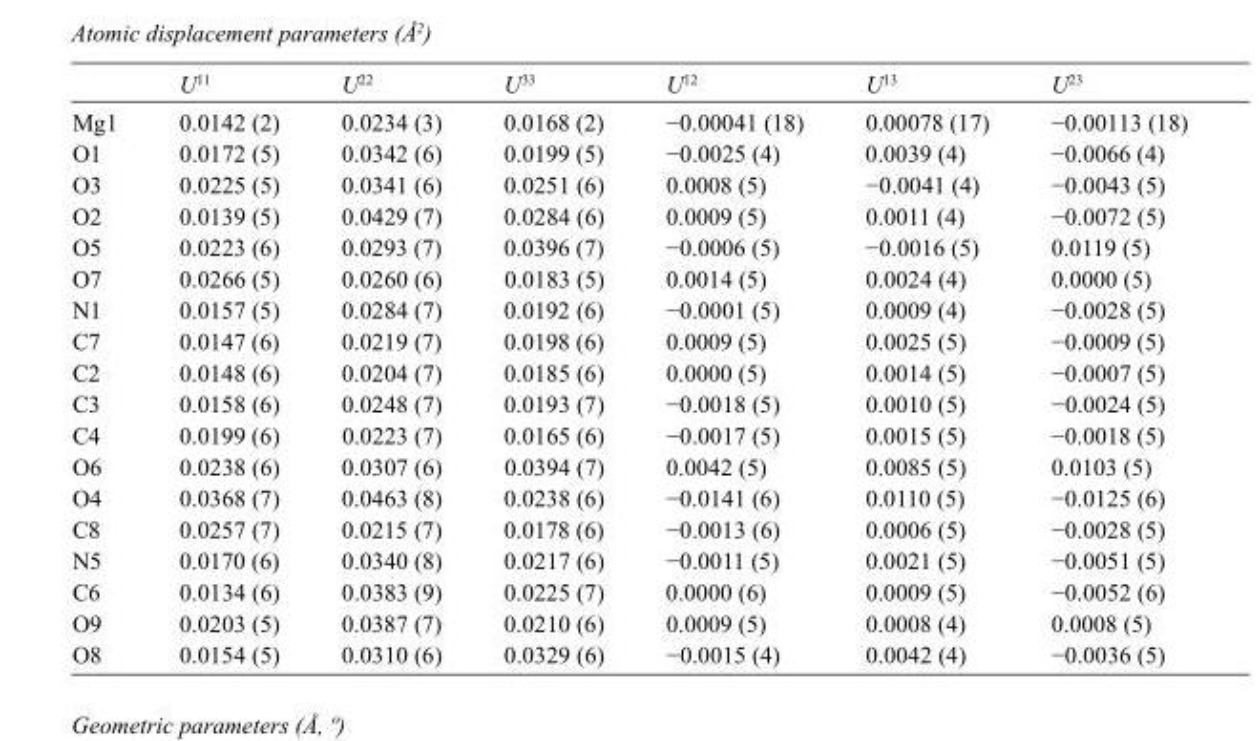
<table><thead><tr><td></td><td>U<sup>11</sup></td><td>U<sup>22</sup></td><td>U<sup>33</sup></td><td>U<sup>12</sup></td><td>U<sup>13</sup></td><td>U<sup>23</sup></td></tr></thead><tbody><tr><td>Mg1</td><td>0.0142 (2)</td><td>0.0234 (3)</td><td>0.0168 (2)</td><td>−0.00041 (18)</td><td>0.00078 (17)</td><td>−0.00113 (18)</td></tr><tr><td>O1</td><td>0.0172 (5)</td><td>0.0342 (6)</td><td>0.0199 (5)</td><td>−0.0025 (4)</td><td>0.0039 (4)</td><td>−0.0066 (4)</td></tr><tr><td>O3</td><td>0.0225 (5)</td><td>0.0341 (6)</td><td>0.0251 (6)</td><td>0.0008 (5)</td><td>−0.0041 (4)</td><td>−0.0043 (5)</td></tr><tr><td>O2</td><td>0.0139 (5)</td><td>0.0429 (7)</td><td>0.0284 (6)</td><td>0.0009 (5)</td><td>0.0011 (4)</td><td>−0.0072 (5)</td></tr><tr><td>O5</td><td>0.0223 (6)</td><td>0.0293 (7)</td><td>0.0396 (7)</td><td>−0.0006 (5)</td><td>−0.0016 (5)</td><td>0.0119 (5)</td></tr><tr><td>O7</td><td>0.0266 (5)</td><td>0.0260 (6)</td><td>0.0183 (5)</td><td>0.0014 (5)</td><td>0.0024 (4)</td><td>0.0000 (5)</td></tr><tr><td>N1</td><td>0.0157 (5)</td><td>0.0284 (7)</td><td>0.0192 (6)</td><td>−0.0001 (5)</td><td>0.0009 (4)</td><td>−0.0028 (5)</td></tr><tr><td>C7</td><td>0.0147 (6)</td><td>0.0219 (7)</td><td>0.0198 (6)</td><td>0.0009 (5)</td><td>0.0025 (5)</td><td>−0.0009 (5)</td></tr><tr><td>C2</td><td>0.0148 (6)</td><td>0.0204 (7)</td><td>0.0185 (6)</td><td>0.0000 (5)</td><td>0.0014 (5)</td><td>−0.0007 (5)</td></tr><tr><td>C3</td><td>0.0158 (6)</td><td>0.0248 (7)</td><td>0.0193 (7)</td><td>−0.0018 (5)</td><td>0.0010 (5)</td><td>−0.0024 (5)</td></tr><tr><td>C4</td><td>0.0199 (6)</td><td>0.0223 (7)</td><td>0.0165 (6)</td><td>−0.0017 (5)</td><td>0.0015 (5)</td><td>−0.0018 (5)</td></tr><tr><td>O6</td><td>0.0238 (6)</td><td>0.0307 (6)</td><td>0.0394 (7)</td><td>0.0042 (5)</td><td>0.0085 (5)</td><td>0.0103 (5)</td></tr><tr><td>O4</td><td>0.0368 (7)</td><td>0.0463 (8)</td><td>0.0238 (6)</td><td>−0.0141 (6)</td><td>0.0110 (5)</td><td>−0.0125 (6)</td></tr><tr><td>C8</td><td>0.0257 (7)</td><td>0.0215 (7)</td><td>0.0178 (6)</td><td>−0.0013 (6)</td><td>0.0006 (5)</td><td>−0.0028 (5)</td></tr><tr><td>N5</td><td>0.0170 (6)</td><td>0.0340 (8)</td><td>0.0217 (6)</td><td>−0.0011 (5)</td><td>0.0021 (5)</td><td>−0.0051 (5)</td></tr><tr><td>C6</td><td>0.0134 (6)</td><td>0.0383 (9)</td><td>0.0225 (7)</td><td>0.0000 (6)</td><td>0.0009 (5)</td><td>−0.0052 (6)</td></tr><tr><td>O9</td><td>0.0203 (5)</td><td>0.0387 (7)</td><td>0.0210 (6)</td><td>0.0009 (5)</td><td>0.0008 (4)</td><td>0.0008 (5)</td></tr><tr><td>O8</td><td>0.0154 (5)</td><td>0.0310 (6)</td><td>0.0329 (6)</td><td>−0.0015 (4)</td><td>0.0042 (4)</td><td>−0.0036 (5)</td></tr></tbody></table>